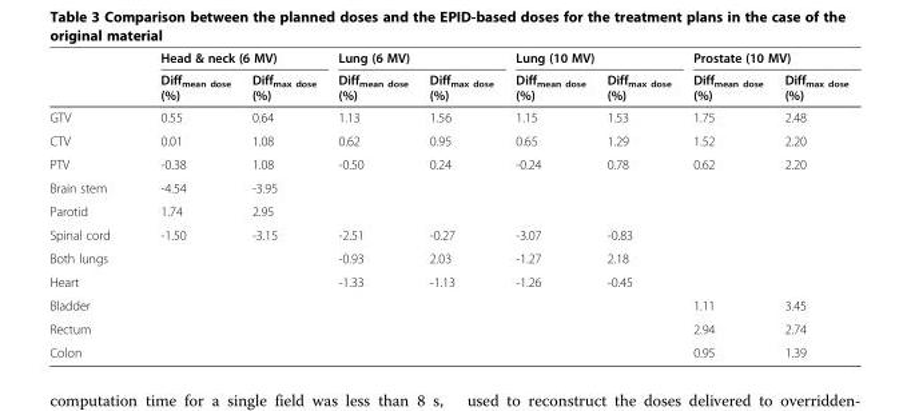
<table><thead><tr><td rowspan="2"></td><td colspan="2">Head &amp; neck (6 MV)</td><td colspan="2">Lung (6 MV)</td><td colspan="2">Lung (10 MV)</td><td colspan="2">Prostate (10 MV)</td></tr><tr><td>Diff<sub>mean dose</sub> (%)</td><td>Diff<sub>max dose</sub> (%)</td><td>Diff<sub>mean dose</sub> (%)</td><td>Diff<sub>max dose</sub> (%)</td><td>Diff<sub>mean dose</sub> (%)</td><td>Diff<sub>max dose</sub> (%)</td><td>Diff<sub>mean dose</sub> (%)</td><td>Diff<sub>max dose</sub> (%)</td></tr></thead><tbody><tr><td>GTV</td><td>0.55</td><td>0.64</td><td>1.13</td><td>1.56</td><td>1.15</td><td>1.53</td><td>1.75</td><td>2.48</td></tr><tr><td>CTV</td><td>0.01</td><td>1.08</td><td>0.62</td><td>0.95</td><td>0.65</td><td>1.29</td><td>1.52</td><td>2.20</td></tr><tr><td>PTV</td><td>-0.38</td><td>1.08</td><td>-0.50</td><td>0.24</td><td>-0.24</td><td>0.78</td><td>0.62</td><td>2.20</td></tr><tr><td>Brain stem</td><td>-4.54</td><td>-3.95</td><td></td><td></td><td></td><td></td><td></td><td></td></tr><tr><td>Parotid</td><td>1.74</td><td>2.95</td><td></td><td></td><td></td><td></td><td></td><td></td></tr><tr><td>Spinal cord</td><td>-1.50</td><td>-3.15</td><td>-2.51</td><td>-0.27</td><td>-3.07</td><td>-0.83</td><td></td><td></td></tr><tr><td>Both lungs</td><td></td><td></td><td>-0.93</td><td>2.03</td><td>-1.27</td><td>2.18</td><td></td><td></td></tr><tr><td>Heart</td><td></td><td></td><td>-1.33</td><td>-1.13</td><td>-1.26</td><td>-0.45</td><td></td><td></td></tr><tr><td>Bladder</td><td></td><td></td><td></td><td></td><td></td><td></td><td>1.11</td><td>3.45</td></tr><tr><td>Rectum</td><td></td><td></td><td></td><td></td><td></td><td></td><td>2.94</td><td>2.74</td></tr><tr><td>Colon</td><td></td><td></td><td></td><td></td><td></td><td></td><td>0.95</td><td>1.39</td></tr></tbody></table>